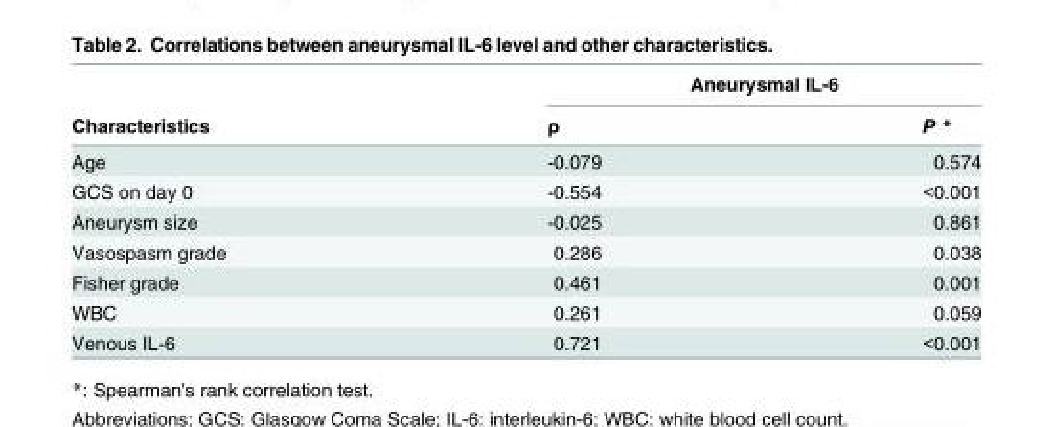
<table><thead><tr><td rowspan="2">Characteristics</td><td colspan="2">Aneurysmal IL-6</td></tr><tr><td>ρ</td><td>P *</td></tr></thead><tbody><tr><td>Age</td><td>-0.079</td><td>0.574</td></tr><tr><td>GCS on day 0</td><td>-0.554</td><td>&lt;0.001</td></tr><tr><td>Aneurysm size</td><td>-0.025</td><td>0.861</td></tr><tr><td>Vasospasm grade</td><td>0.286</td><td>0.038</td></tr><tr><td>Fisher grade</td><td>0.461</td><td>0.001</td></tr><tr><td>WBC</td><td>0.261</td><td>0.059</td></tr><tr><td>Venous IL-6</td><td>0.721</td><td>&lt;0.001</td></tr></tbody></table>